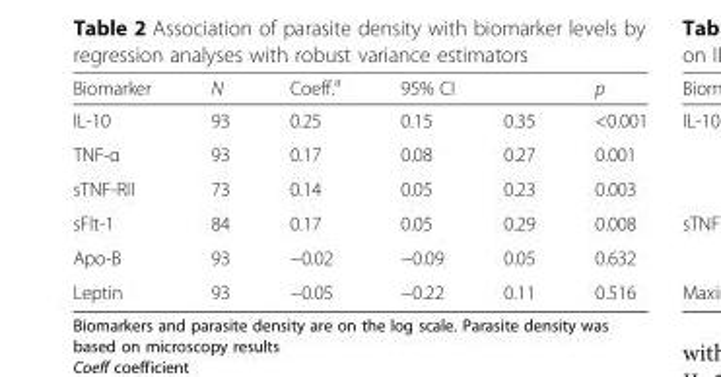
<table><thead><tr><td rowspan="2">Biomarker IL-10</td><td rowspan="2">N 93</td><td rowspan="2">Coeff.<sup>a</sup> 0.25</td><td colspan="2">95% CI</td><td rowspan="2">p &lt;0.001</td></tr><tr><td>0.15</td><td>0.35</td></tr></thead><tbody><tr><td>TNF-α</td><td>93</td><td>0.17</td><td>0.08</td><td>0.27</td><td>0.001</td></tr><tr><td>sTNF-RII</td><td>73</td><td>0.14</td><td>0.05</td><td>0.23</td><td>0.003</td></tr><tr><td>sFlt-1</td><td>84</td><td>0.17</td><td>0.05</td><td>0.29</td><td>0.008</td></tr><tr><td>Apo-B</td><td>93</td><td>−0.02</td><td>−0.09</td><td>0.05</td><td>0.632</td></tr><tr><td>Leptin</td><td>93</td><td>−0.05</td><td>−0.22</td><td>0.11</td><td>0.516</td></tr></tbody></table>